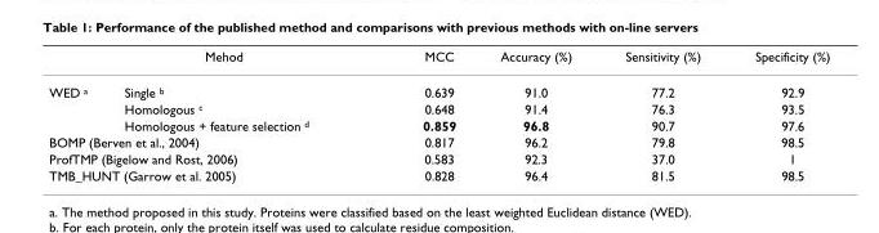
<table><thead><tr><td colspan="2">Mehod</td><td rowspan="2">MCC 0.639</td><td rowspan="2">Accuracy (%) 91.0</td><td rowspan="2">Sensitivity (%) 77.2</td><td rowspan="2">Specificity (%) 92.9</td></tr><tr><td>WED <sup>a</sup></td><td>Single <sup>b</sup></td></tr></thead><tbody><tr><td></td><td>Homologous <sup>c</sup></td><td>0.648</td><td>91.4</td><td>76.3</td><td>93.5</td></tr><tr><td></td><td>Homologous + feature selection <sup>d</sup></td><td>0.859</td><td>96.8</td><td>90.7</td><td>97.6</td></tr><tr><td colspan="2">BOMP (Berven et al., 2004)</td><td>0.817</td><td>96.2</td><td>79.8</td><td>98.5</td></tr><tr><td colspan="2">ProfTMP (Bigelow and Rost, 2006)</td><td>0.583</td><td>92.3</td><td>37.0</td><td>1</td></tr><tr><td colspan="2">TMB_HUNT (Garrow et al. 2005)</td><td>0.828</td><td>96.4</td><td>81.5</td><td>98.5</td></tr></tbody></table>